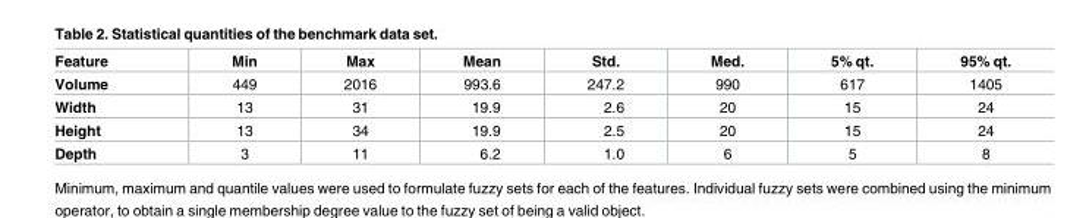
<table><thead><tr><td>Feature</td><td>Min</td><td>Max</td><td>Mean</td><td>Std.</td><td>Med.</td><td>5% qt.</td><td>95% qt.</td></tr></thead><tbody><tr><td>Volume</td><td>449</td><td>2016</td><td>993.6</td><td>247.2</td><td>990</td><td>617</td><td>1405</td></tr><tr><td>Width</td><td>13</td><td>31</td><td>19.9</td><td>2.6</td><td>20</td><td>15</td><td>24</td></tr><tr><td>Height</td><td>13</td><td>34</td><td>19.9</td><td>2.5</td><td>20</td><td>15</td><td>24</td></tr><tr><td>Depth</td><td>3</td><td>11</td><td>6.2</td><td>1.0</td><td>6</td><td>5</td><td>8</td></tr></tbody></table>